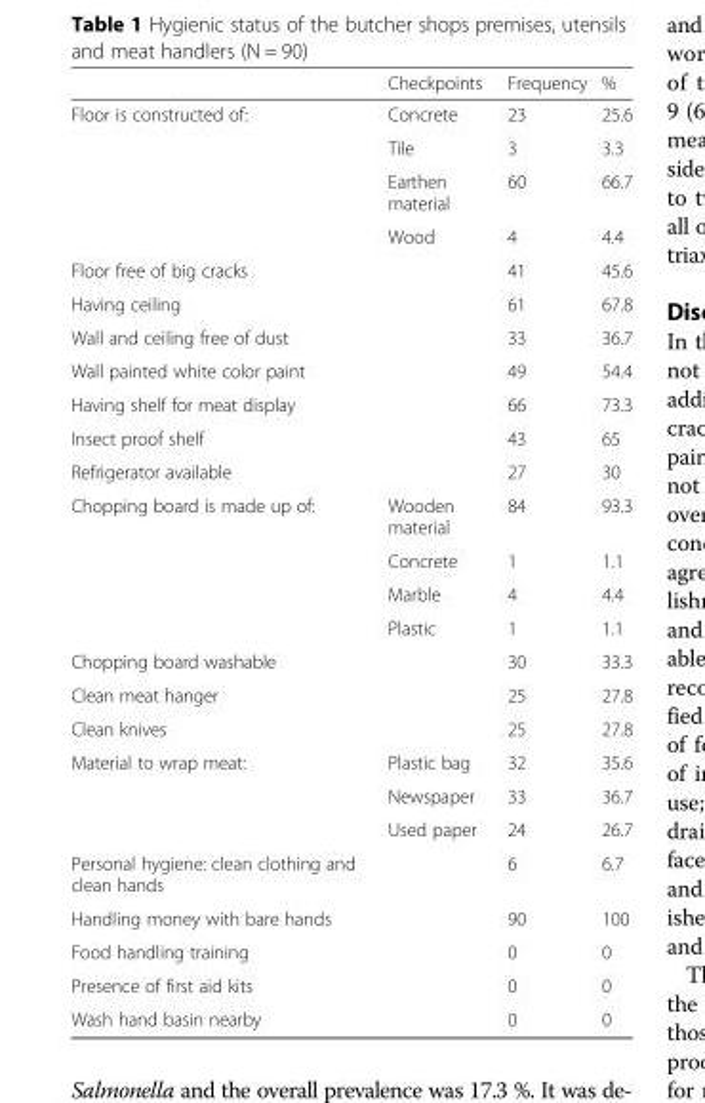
<table><thead><tr><td></td><td>Checkpoints</td><td>Frequency</td><td>%</td></tr></thead><tbody><tr><td rowspan="4">Floor is constructed of:</td><td>Concrete</td><td>23</td><td>25.6</td></tr><tr><td>Tile</td><td>3</td><td>3.3</td></tr><tr><td>Earthen material</td><td>60</td><td>66.7</td></tr><tr><td>Wood</td><td>4</td><td>4.4</td></tr><tr><td>Floor free of big cracks</td><td></td><td>41</td><td>45.6</td></tr><tr><td>Having ceiling</td><td></td><td>61</td><td>67.8</td></tr><tr><td>Wall and ceiling free of dust</td><td></td><td>33</td><td>36.7</td></tr><tr><td>Wall painted white color paint</td><td></td><td>49</td><td>54.4</td></tr><tr><td>Having shelf for meat display</td><td></td><td>66</td><td>73.3</td></tr><tr><td>Insect proof shelf</td><td></td><td>43</td><td>65</td></tr><tr><td>Refrigerator available</td><td></td><td>27</td><td>30</td></tr><tr><td rowspan="4">Chopping board is made up of:</td><td>Wooden material</td><td>84</td><td>93.3</td></tr><tr><td>Concrete</td><td>1</td><td>1.1</td></tr><tr><td>Marble</td><td>4</td><td>4.4</td></tr><tr><td>Plastic</td><td>1</td><td>1.1</td></tr><tr><td>Chopping board washable</td><td></td><td>30</td><td>33.3</td></tr><tr><td>Clean meat hanger</td><td></td><td>25</td><td>27.8</td></tr><tr><td>Clean knives</td><td></td><td>25</td><td>27.8</td></tr><tr><td rowspan="3">Material to wrap meat:</td><td>Plastic bag</td><td>32</td><td>35.6</td></tr><tr><td>Newspaper</td><td>33</td><td>36.7</td></tr><tr><td>Used paper</td><td>24</td><td>26.7</td></tr><tr><td>Personal hygiene: clean clothing and clean hands</td><td></td><td>6</td><td>6.7</td></tr><tr><td>Handling money with bare hands</td><td></td><td>90</td><td>100</td></tr><tr><td>Food handling training</td><td></td><td>0</td><td>0</td></tr><tr><td>Presence of first aid kits</td><td></td><td>0</td><td>0</td></tr><tr><td>Wash hand basin nearby</td><td></td><td>0</td><td>0</td></tr></tbody></table>